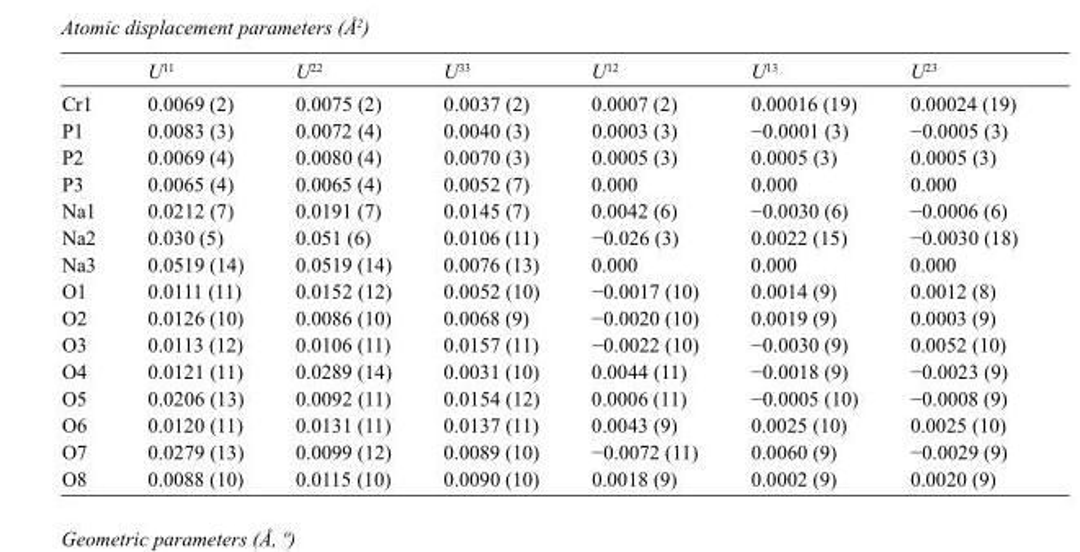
<table><thead><tr><td></td><td>U<sup>11</sup></td><td>U<sup>22</sup></td><td>U<sup>33</sup></td><td>U<sup>12</sup></td><td>U<sup>13</sup></td><td>U<sup>23</sup></td></tr></thead><tbody><tr><td>Cr1</td><td>0.0069 (2)</td><td>0.0075 (2)</td><td>0.0037 (2)</td><td>0.0007 (2)</td><td>0.00016 (19)</td><td>0.00024 (19)</td></tr><tr><td>P1</td><td>0.0083 (3)</td><td>0.0072 (4)</td><td>0.0040 (3)</td><td>0.0003 (3)</td><td>−0.0001 (3)</td><td>−0.0005 (3)</td></tr><tr><td>P2</td><td>0.0069 (4)</td><td>0.0080 (4)</td><td>0.0070 (3)</td><td>0.0005 (3)</td><td>0.0005 (3)</td><td>0.0005 (3)</td></tr><tr><td>P3</td><td>0.0065 (4)</td><td>0.0065 (4)</td><td>0.0052 (7)</td><td>0.000</td><td>0.000</td><td>0.000</td></tr><tr><td>Na1</td><td>0.0212 (7)</td><td>0.0191 (7)</td><td>0.0145 (7)</td><td>0.0042 (6)</td><td>−0.0030 (6)</td><td>−0.0006 (6)</td></tr><tr><td>Na2</td><td>0.030 (5)</td><td>0.051 (6)</td><td>0.0106 (11)</td><td>−0.026 (3)</td><td>0.0022 (15)</td><td>−0.0030 (18)</td></tr><tr><td>Na3</td><td>0.0519 (14)</td><td>0.0519 (14)</td><td>0.0076 (13)</td><td>0.000</td><td>0.000</td><td>0.000</td></tr><tr><td>O1</td><td>0.0111 (11)</td><td>0.0152 (12)</td><td>0.0052 (10)</td><td>−0.0017 (10)</td><td>0.0014 (9)</td><td>0.0012 (8)</td></tr><tr><td>O2</td><td>0.0126 (10)</td><td>0.0086 (10)</td><td>0.0068 (9)</td><td>−0.0020 (10)</td><td>0.0019 (9)</td><td>0.0003 (9)</td></tr><tr><td>O3</td><td>0.0113 (12)</td><td>0.0106 (11)</td><td>0.0157 (11)</td><td>−0.0022 (10)</td><td>−0.0030 (9)</td><td>0.0052 (10)</td></tr><tr><td>O4</td><td>0.0121 (11)</td><td>0.0289 (14)</td><td>0.0031 (10)</td><td>0.0044 (11)</td><td>−0.0018 (9)</td><td>−0.0023 (9)</td></tr><tr><td>O5</td><td>0.0206 (13)</td><td>0.0092 (11)</td><td>0.0154 (12)</td><td>0.0006 (11)</td><td>−0.0005 (10)</td><td>−0.0008 (9)</td></tr><tr><td>O6</td><td>0.0120 (11)</td><td>0.0131 (11)</td><td>0.0137 (11)</td><td>0.0043 (9)</td><td>0.0025 (10)</td><td>0.0025 (10)</td></tr><tr><td>O7</td><td>0.0279 (13)</td><td>0.0099 (12)</td><td>0.0089 (10)</td><td>−0.0072 (11)</td><td>0.0060 (9)</td><td>−0.0029 (9)</td></tr><tr><td>O8</td><td>0.0088 (10)</td><td>0.0115 (10)</td><td>0.0090 (10)</td><td>0.0018 (9)</td><td>0.0002 (9)</td><td>0.0020 (9)</td></tr></tbody></table>